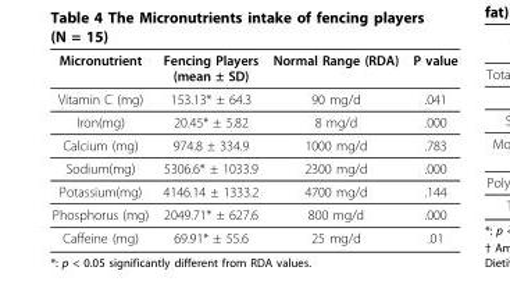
<table><thead><tr><td>Micronutrient</td><td>Fencing Players (mean ± SD)</td><td>Normal Range (RDA)</td><td>P value</td></tr></thead><tbody><tr><td>Vitamin C (mg)</td><td>153.13* ± 64.3</td><td>90 mg/d</td><td>.041</td></tr><tr><td>Iron(mg)</td><td>20.45* ± 5.82</td><td>8 mg/d</td><td>.000</td></tr><tr><td>Calcium (mg)</td><td>974.8 ± 334.9</td><td>1000 mg/d</td><td>.783</td></tr><tr><td>Sodium(mg)</td><td>5306.6* ± 1033.9</td><td>2300 mg/d</td><td>.000</td></tr><tr><td>Potassium(mg)</td><td>4146.14 ± 1333.2</td><td>4700 mg/d</td><td>.144</td></tr><tr><td>Phosphorus (mg)</td><td>2049.71* ± 627.6</td><td>800 mg/d</td><td>.000</td></tr><tr><td>Caffeine (mg)</td><td>69.91* ± 55.6</td><td>25 mg/d</td><td>.01</td></tr></tbody></table>